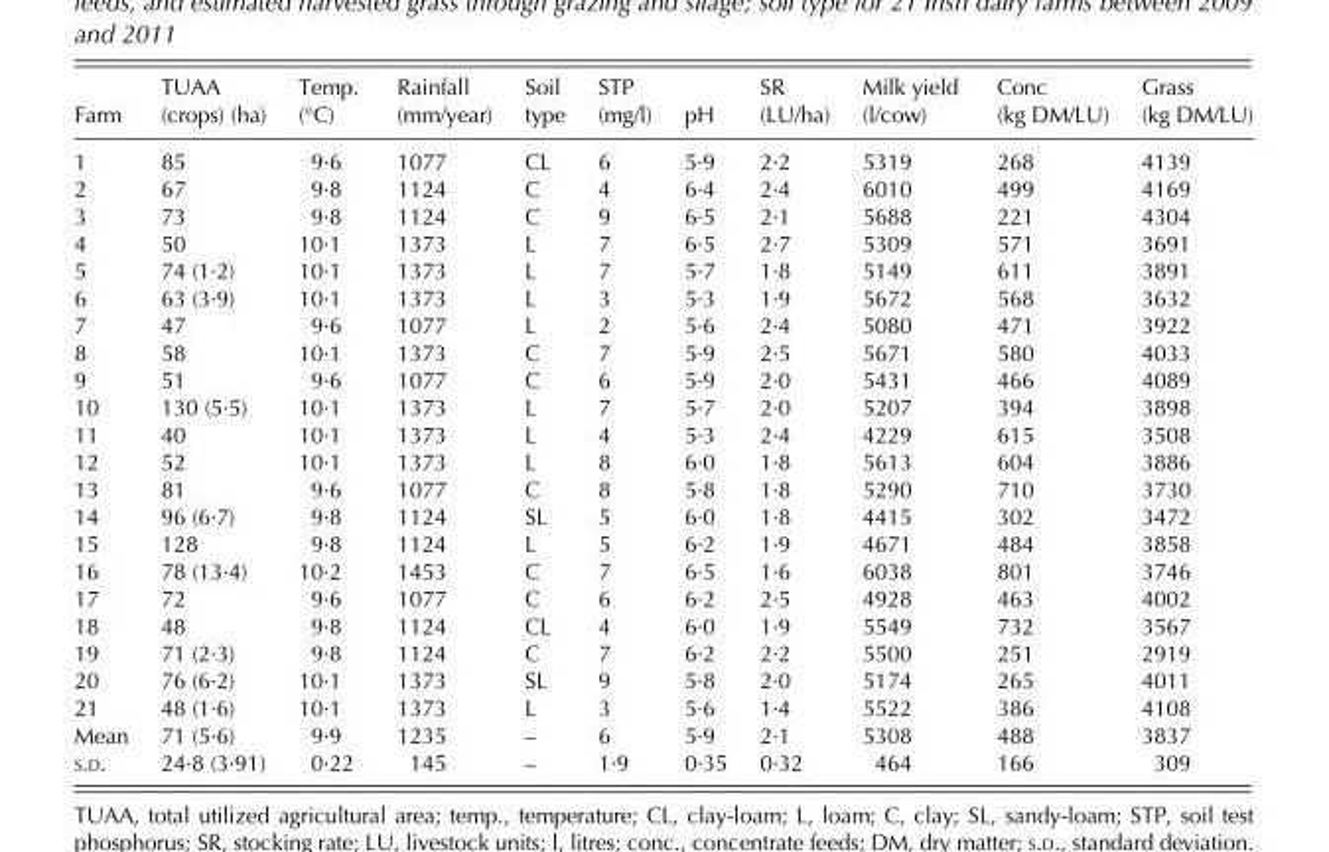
<table><thead><tr><td>Farm</td><td>TUAA (crops) (ha)</td><td>Temp. (°C)</td><td>Rainfall (mm/year)</td><td>Soil type</td><td>STP (mg/l)</td><td>pH</td><td>SR (LU/ha)</td><td>Milk yield (l/cow)</td><td>Conc (kg DM/LU)</td><td>Grass (kg DM/LU)</td></tr></thead><tbody><tr><td>1</td><td>85</td><td>9·6</td><td>1077</td><td>CL</td><td>6</td><td>5·9</td><td>2·2</td><td>5319</td><td>268</td><td>4139</td></tr><tr><td>2</td><td>67</td><td>9·8</td><td>1124</td><td>C</td><td>4</td><td>6·4</td><td>2·4</td><td>6010</td><td>499</td><td>4169</td></tr><tr><td>3</td><td>73</td><td>9·8</td><td>1124</td><td>C</td><td>9</td><td>6·5</td><td>2·1</td><td>5688</td><td>221</td><td>4304</td></tr><tr><td>4</td><td>50</td><td>10·1</td><td>1373</td><td>L</td><td>7</td><td>6·5</td><td>2·7</td><td>5309</td><td>571</td><td>3691</td></tr><tr><td>5</td><td>74 (1·2)</td><td>10·1</td><td>1373</td><td>L</td><td>7</td><td>5·7</td><td>1·8</td><td>5149</td><td>611</td><td>3891</td></tr><tr><td>6</td><td>63 (3·9)</td><td>10·1</td><td>1373</td><td>L</td><td>3</td><td>5·3</td><td>1·9</td><td>5672</td><td>568</td><td>3632</td></tr><tr><td>7</td><td>47</td><td>9·6</td><td>1077</td><td>L</td><td>2</td><td>5·6</td><td>2·4</td><td>5080</td><td>471</td><td>3922</td></tr><tr><td>8</td><td>58</td><td>10·1</td><td>1373</td><td>C</td><td>7</td><td>5·9</td><td>2·5</td><td>5671</td><td>580</td><td>4033</td></tr><tr><td>9</td><td>51</td><td>9·6</td><td>1077</td><td>C</td><td>6</td><td>5·9</td><td>2·0</td><td>5431</td><td>466</td><td>4089</td></tr><tr><td>10</td><td>130 (5·5)</td><td>10·1</td><td>1373</td><td>L</td><td>7</td><td>5·7</td><td>2·0</td><td>5207</td><td>394</td><td>3898</td></tr><tr><td>11</td><td>40</td><td>10·1</td><td>1373</td><td>L</td><td>4</td><td>5·3</td><td>2·4</td><td>4229</td><td>615</td><td>3508</td></tr><tr><td>12</td><td>52</td><td>10·1</td><td>1373</td><td>L</td><td>8</td><td>6·0</td><td>1·8</td><td>5613</td><td>604</td><td>3886</td></tr><tr><td>13</td><td>81</td><td>9·6</td><td>1077</td><td>C</td><td>8</td><td>5·8</td><td>1·8</td><td>5290</td><td>710</td><td>3730</td></tr><tr><td>14</td><td>96 (6·7)</td><td>9·8</td><td>1124</td><td>SL</td><td>5</td><td>6·0</td><td>1·8</td><td>4415</td><td>302</td><td>3472</td></tr><tr><td>15</td><td>128</td><td>9·8</td><td>1124</td><td>L</td><td>5</td><td>6·2</td><td>1·9</td><td>4671</td><td>484</td><td>3858</td></tr><tr><td>16</td><td>78 (13·4)</td><td>10·2</td><td>1453</td><td>C</td><td>7</td><td>6·5</td><td>1·6</td><td>6038</td><td>801</td><td>3746</td></tr><tr><td>17</td><td>72</td><td>9·6</td><td>1077</td><td>C</td><td>6</td><td>6·2</td><td>2·5</td><td>4928</td><td>463</td><td>4002</td></tr><tr><td>18</td><td>48</td><td>9·8</td><td>1124</td><td>CL</td><td>4</td><td>6·0</td><td>1·9</td><td>5549</td><td>732</td><td>3567</td></tr><tr><td>19</td><td>71 (2·3)</td><td>9·8</td><td>1124</td><td>C</td><td>7</td><td>6·2</td><td>2·2</td><td>5500</td><td>251</td><td>2919</td></tr><tr><td>20</td><td>76 (6·2)</td><td>10·1</td><td>1373</td><td>SL</td><td>9</td><td>5·8</td><td>2·0</td><td>5174</td><td>265</td><td>4011</td></tr><tr><td>21</td><td>48 (1·6)</td><td>10·1</td><td>1373</td><td>L</td><td>3</td><td>5·6</td><td>1·4</td><td>5522</td><td>386</td><td>4108</td></tr><tr><td>Mean</td><td>71 (5·6)</td><td>9·9</td><td>1235</td><td>–</td><td>6</td><td>5·9</td><td>2·1</td><td>5308</td><td>488</td><td>3837</td></tr><tr><td>S.D.</td><td>24·8 (3·91)</td><td>0·22</td><td>145</td><td>–</td><td>1·9</td><td>0·35</td><td>0·32</td><td>464</td><td>166</td><td>309</td></tr></tbody></table>